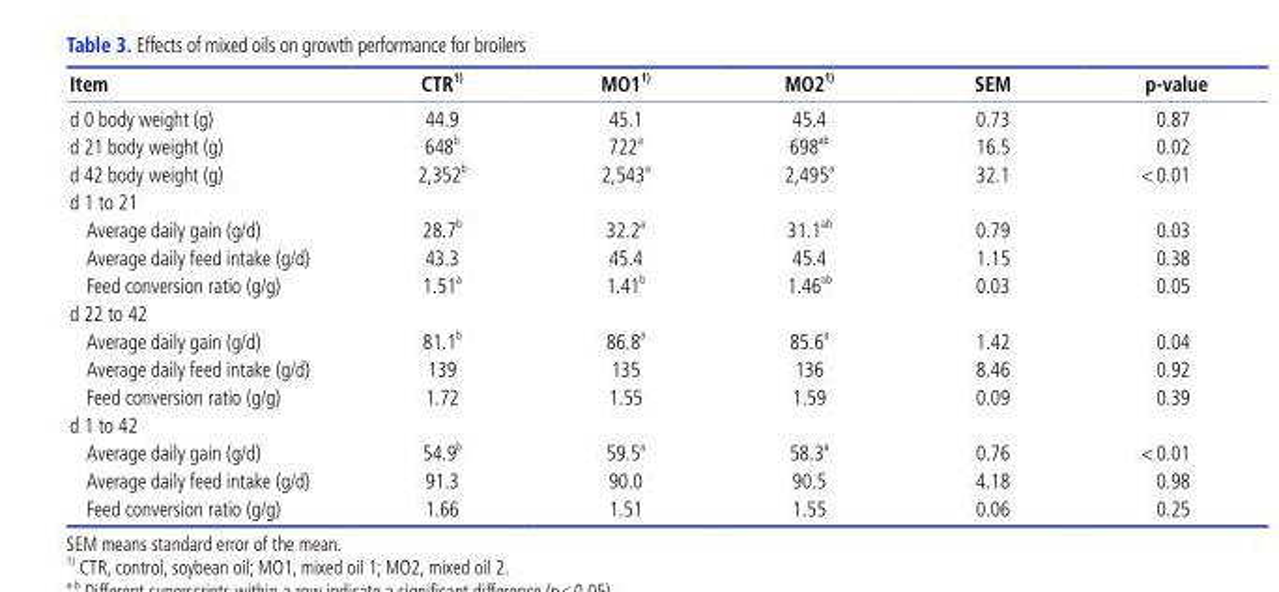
<table><thead><tr><td>Item</td><td>CTR 1)</td><td>MO1 1)</td><td>MO2 1)</td><td>SEM</td><td>p-value</td></tr></thead><tbody><tr><td>d 0 body weight (g)</td><td>44.9</td><td>45.1</td><td>45.4</td><td>0.73</td><td>0.87</td></tr><tr><td>d 21 body weight (g)</td><td>648 <sup>b</sup></td><td>722 <sup>a</sup></td><td>698 <sup>ab</sup></td><td>16.5</td><td>0.02</td></tr><tr><td>d 42 body weight (g)</td><td>2,352 <sup>b</sup></td><td>2,543 <sup>a</sup></td><td>2,495 <sup>a</sup></td><td>32.1</td><td>&lt;0.01</td></tr><tr><td colspan="6">d 1 to 21</td></tr><tr><td>Average daily gain (g/d)</td><td>28.7 <sup>b</sup></td><td>32.2 <sup>a</sup></td><td>31.1 <sup>ab</sup></td><td>0.79</td><td>0.03</td></tr><tr><td>Average daily feed intake (g/d)</td><td>43.3</td><td>45.4</td><td>45.4</td><td>1.15</td><td>0.38</td></tr><tr><td>Feed conversion ratio (g/g)</td><td>1.51 <sup>a</sup></td><td>1.41 <sup>b</sup></td><td>1.46 <sup>ab</sup></td><td>0.03</td><td>0.05</td></tr><tr><td colspan="6">d 22 to 42</td></tr><tr><td>Average daily gain (g/d)</td><td>81.1 <sup>b</sup></td><td>86.8 <sup>a</sup></td><td>85.6 <sup>a</sup></td><td>1.42</td><td>0.04</td></tr><tr><td>Average daily feed intake (g/d)</td><td>139</td><td>135</td><td>136</td><td>8.46</td><td>0.92</td></tr><tr><td>Feed conversion ratio (g/g)</td><td>1.72</td><td>1.55</td><td>1.59</td><td>0.09</td><td>0.39</td></tr><tr><td colspan="6">d 1 to 42</td></tr><tr><td>Average daily gain (g/d)</td><td>54.9 <sup>b</sup></td><td>59.5 <sup>a</sup></td><td>58.3 <sup>a</sup></td><td>0.76</td><td>&lt;0.01</td></tr><tr><td>Average daily feed intake (g/d)</td><td>91.3</td><td>90.0</td><td>90.5</td><td>4.18</td><td>0.98</td></tr><tr><td>Feed conversion ratio (g/g)</td><td>1.66</td><td>1.51</td><td>1.55</td><td>0.06</td><td>0.25</td></tr></tbody></table>